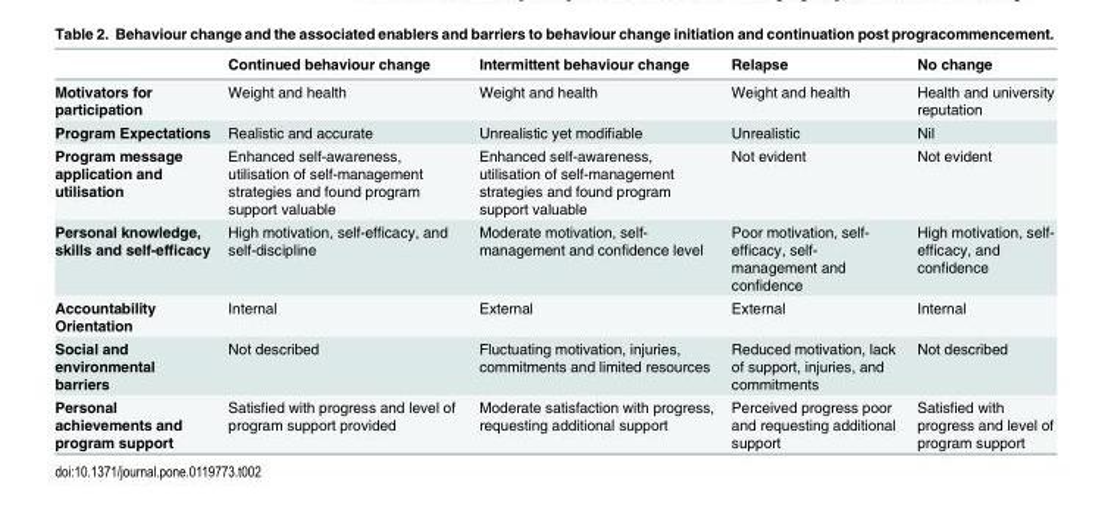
<table><thead><tr><td></td><td>Continued behaviour change</td><td>Intermittent behaviour change</td><td>Relapse</td><td>No change</td></tr></thead><tbody><tr><td>Motivators for participation</td><td>Weight and health</td><td>Weight and health</td><td>Weight and health</td><td>Health and university reputation</td></tr><tr><td>Program Expectations</td><td>Realistic and accurate</td><td>Unrealistic yet modifiable</td><td>Unrealistic</td><td>Nil</td></tr><tr><td>Program message application and utilisation</td><td>Enhanced self-awareness, utilisation of self-management strategies and found program support valuable</td><td>Enhanced self-awareness, utilisation of self-management strategies and found program support valuable</td><td>Not evident</td><td>Not evident</td></tr><tr><td>Personal knowledge, skills and self-efficacy</td><td>High motivation, self-efficacy, and self-discipline</td><td>Moderate motivation, self- management and confidence level</td><td>Poor motivation, self- efficacy, self- management and confidence</td><td>High motivation, self- efficacy, and confidence</td></tr><tr><td>Accountability Orientation</td><td>Internal</td><td>External</td><td>External</td><td>Internal</td></tr><tr><td>Social and environmental barriers</td><td>Not described</td><td>Fluctuating motivation, injuries, commitments and limited resources</td><td>Reduced motivation, lack of support, injuries, and commitments</td><td>Not described</td></tr><tr><td>Personal achievements and program support</td><td>Satisfied with progress and level of program support provided</td><td>Moderate satisfaction with progress, requesting additional support</td><td>Perceived progress poor and requesting additional support</td><td>Satisfied with progress and level of program support</td></tr></tbody></table>